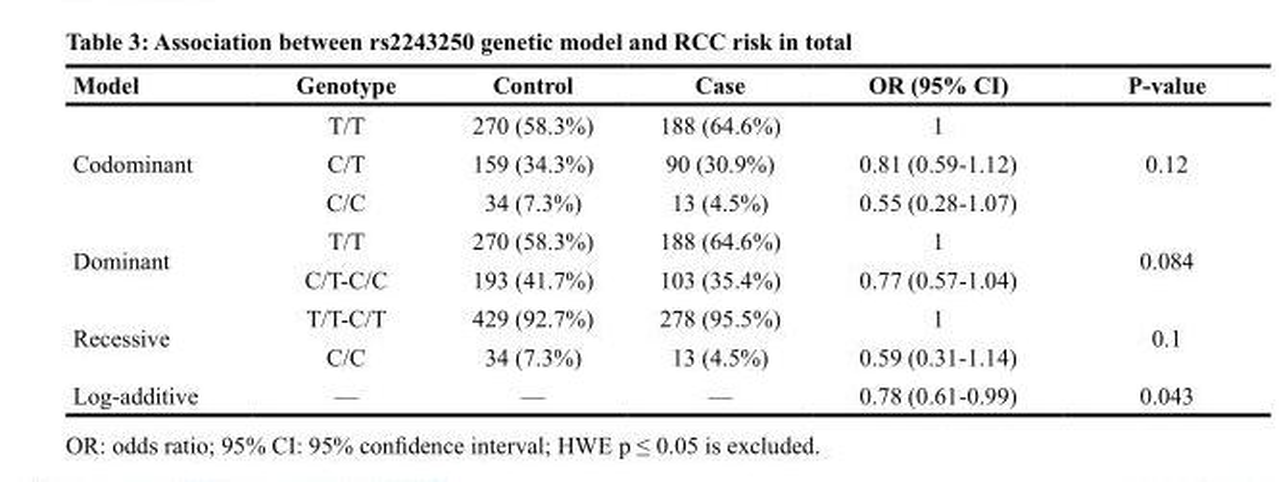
<table><thead><tr><td>Model</td><td>Genotype</td><td>Control</td><td>Case</td><td>OR (95% CI)</td><td>P-value</td></tr></thead><tbody><tr><td rowspan="3">Codominant</td><td>T/T</td><td>270 (58.3%)</td><td>188 (64.6%)</td><td>1</td><td rowspan="3">0.12</td></tr><tr><td>C/T</td><td>159 (34.3%)</td><td>90 (30.9%)</td><td>0.81 (0.59-1.12)</td></tr><tr><td>C/C</td><td>34 (7.3%)</td><td>13 (4.5%)</td><td>0.55 (0.28-1.07)</td></tr><tr><td rowspan="2">Dominant</td><td>T/T</td><td>270 (58.3%)</td><td>188 (64.6%)</td><td>1</td><td rowspan="2">0.084</td></tr><tr><td>C/T-C/C</td><td>193 (41.7%)</td><td>103 (35.4%)</td><td>0.77 (0.57-1.04)</td></tr><tr><td rowspan="2">Recessive</td><td>T/T-C/T</td><td>429 (92.7%)</td><td>278 (95.5%)</td><td>1</td><td rowspan="2">0.1</td></tr><tr><td>C/C</td><td>34 (7.3%)</td><td>13 (4.5%)</td><td>0.59 (0.31-1.14)</td></tr><tr><td>Log-additive</td><td>—</td><td>—</td><td>—</td><td>0.78 (0.61-0.99)</td><td>0.043</td></tr></tbody></table>